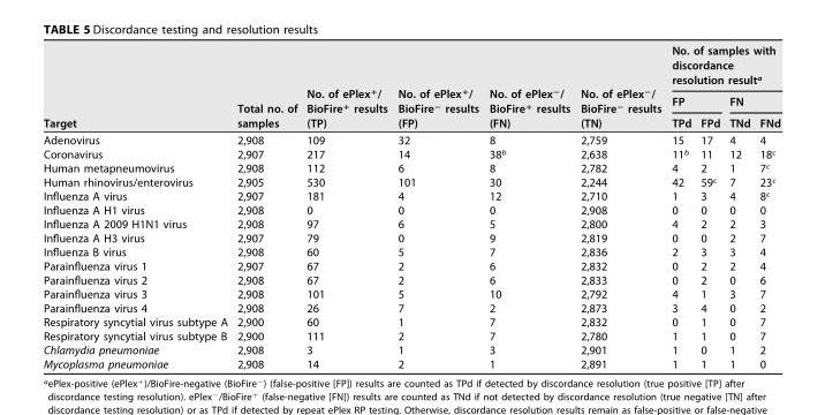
<table><thead><tr><td rowspan="3">Target</td><td rowspan="3">Total no. of samples</td><td rowspan="3">No. of ePlex<sup>+</sup>/ BioFire<sup>+</sup> results (TP)</td><td rowspan="3">No. of ePlex<sup>+</sup>/ BioFire<sup>−</sup> results (FP)</td><td rowspan="3">No. of ePlex<sup>−</sup>/ BioFire<sup>+</sup> results (FN)</td><td rowspan="3">No. of ePlex<sup>−</sup>/ BioFire<sup>−</sup> results (TN)</td><td colspan="4">No. of samples with discordance resolution result<sup>a</sup></td></tr><tr><td colspan="2">FP</td><td colspan="2">FN</td></tr><tr><td>TPd</td><td>FPd</td><td>TNd</td><td>FNd</td></tr></thead><tbody><tr><td>Adenovirus</td><td>2,908</td><td>109</td><td>32</td><td>8</td><td>2,759</td><td>15</td><td>17</td><td>4</td><td>4</td></tr><tr><td>Coronavirus</td><td>2,907</td><td>217</td><td>14</td><td>38<sup>b</sup></td><td>2,638</td><td>11<sup>b</sup></td><td>11</td><td>12</td><td>18<sup>c</sup></td></tr><tr><td>Human metapneumovirus</td><td>2,908</td><td>112</td><td>6</td><td>8</td><td>2,782</td><td>4</td><td>2</td><td>1</td><td>7<sup>c</sup></td></tr><tr><td>Human rhinovirus/enterovirus</td><td>2,905</td><td>530</td><td>101</td><td>30</td><td>2,244</td><td>42</td><td>59<sup>c</sup></td><td>7</td><td>23<sup>c</sup></td></tr><tr><td>Influenza A virus</td><td>2,907</td><td>181</td><td>4</td><td>12</td><td>2,710</td><td>1</td><td>3</td><td>4</td><td>8<sup>c</sup></td></tr><tr><td>Influenza A H1 virus</td><td>2,908</td><td>0</td><td>0</td><td>0</td><td>2,908</td><td>0</td><td>0</td><td>0</td><td>0</td></tr><tr><td>Influenza A 2009 H1N1 virus</td><td>2,908</td><td>97</td><td>6</td><td>5</td><td>2,800</td><td>4</td><td>2</td><td>2</td><td>3</td></tr><tr><td>Influenza A H3 virus</td><td>2,907</td><td>79</td><td>0</td><td>9</td><td>2,819</td><td>0</td><td>0</td><td>2</td><td>7</td></tr><tr><td>Influenza B virus</td><td>2,908</td><td>60</td><td>5</td><td>7</td><td>2,836</td><td>2</td><td>3</td><td>3</td><td>4</td></tr><tr><td>Parainfluenza virus 1</td><td>2,907</td><td>67</td><td>2</td><td>6</td><td>2,832</td><td>0</td><td>2</td><td>2</td><td>4</td></tr><tr><td>Parainfluenza virus 2</td><td>2,908</td><td>67</td><td>2</td><td>6</td><td>2,833</td><td>0</td><td>2</td><td>0</td><td>6</td></tr><tr><td>Parainfluenza virus 3</td><td>2,908</td><td>101</td><td>5</td><td>10</td><td>2,792</td><td>4</td><td>1</td><td>3</td><td>7</td></tr><tr><td>Parainfluenza virus 4</td><td>2,908</td><td>26</td><td>7</td><td>2</td><td>2,873</td><td>3</td><td>4</td><td>0</td><td>2</td></tr><tr><td>Respiratory syncytial virus subtype A</td><td>2,900</td><td>60</td><td>1</td><td>7</td><td>2,832</td><td>0</td><td>1</td><td>0</td><td>7</td></tr><tr><td>Respiratory syncytial virus subtype B</td><td>2,900</td><td>111</td><td>2</td><td>7</td><td>2,780</td><td>1</td><td>1</td><td>0</td><td>7</td></tr><tr><td>Chlamydia pneumoniae</td><td>2,908</td><td>3</td><td>1</td><td>3</td><td>2,901</td><td>1</td><td>0</td><td>1</td><td>2</td></tr><tr><td>Mycoplasma pneumoniae</td><td>2,908</td><td>14</td><td>2</td><td>1</td><td>2,891</td><td>1</td><td>1</td><td>1</td><td>0</td></tr></tbody></table>